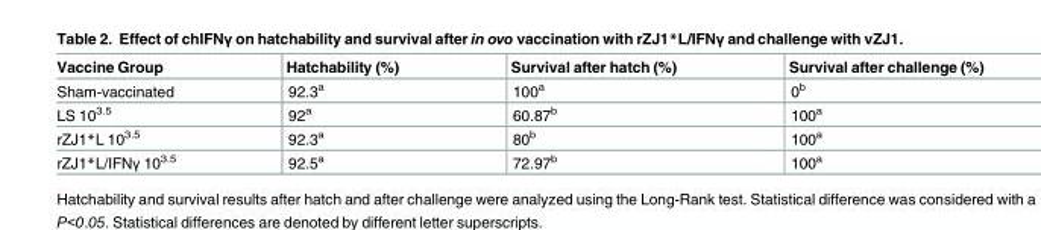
<table><thead><tr><td>Vaccine Group</td><td>Hatchability (%)</td><td>Survival after hatch (%)</td><td>Survival after challenge (%)</td></tr></thead><tbody><tr><td>Sham-vaccinated</td><td>92.3<sup>a</sup></td><td>100<sup>a</sup></td><td>0<sup>b</sup></td></tr><tr><td>LS 10<sup>3.5</sup></td><td>92<sup>a</sup></td><td>60.87<sup>b</sup></td><td>100<sup>a</sup></td></tr><tr><td>rZJ1*L 10<sup>3.5</sup></td><td>92.3<sup>a</sup></td><td>80<sup>b</sup></td><td>100<sup>a</sup></td></tr><tr><td>rZJ1*L/IFNγ 10<sup>3.5</sup></td><td>92.5<sup>a</sup></td><td>72.97<sup>b</sup></td><td>100<sup>a</sup></td></tr></tbody></table>